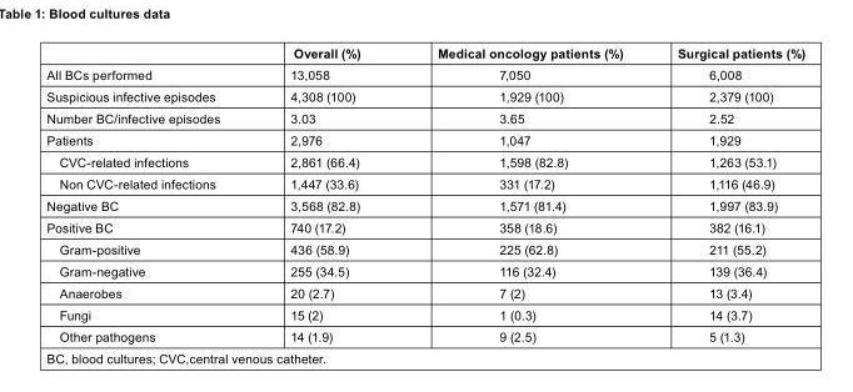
<table><thead><tr><td></td><td>Overall (%)</td><td>Medical oncology patients (%)</td><td>Surgical patients (%)</td></tr></thead><tbody><tr><td>All BCs performed</td><td>13,058</td><td>7,050</td><td>6,008</td></tr><tr><td>Suspicious infective episodes</td><td>4,308 (100)</td><td>1,929 (100)</td><td>2,379 (100)</td></tr><tr><td>Number BC/infective episodes</td><td>3.03</td><td>3.65</td><td>2.52</td></tr><tr><td>Patients</td><td>2,976</td><td>1,047</td><td>1,929</td></tr><tr><td>CVC-related infections</td><td>2,861 (66.4)</td><td>1,598 (82.8)</td><td>1,263 (53.1)</td></tr><tr><td>Non CVC-related infections</td><td>1,447 (33.6)</td><td>331 (17.2)</td><td>1,116 (46.9)</td></tr><tr><td>Negative BC</td><td>3,568 (82.8)</td><td>1,571 (81.4)</td><td>1,997 (83.9)</td></tr><tr><td>Positive BC</td><td>740 (17.2)</td><td>358 (18.6)</td><td>382 (16.1)</td></tr><tr><td>Gram-positive</td><td>436 (58.9)</td><td>225 (62.8)</td><td>211 (55.2)</td></tr><tr><td>Gram-negative</td><td>255 (34.5)</td><td>116 (32.4)</td><td>139 (36.4)</td></tr><tr><td>Anaerobes</td><td>20 (2.7)</td><td>7 (2)</td><td>13 (3.4)</td></tr><tr><td>Fungi</td><td>15 (2)</td><td>1 (0.3)</td><td>14 (3.7)</td></tr><tr><td>Other pathogens</td><td>14 (1.9)</td><td>9 (2.5)</td><td>5 (1.3)</td></tr></tbody></table>